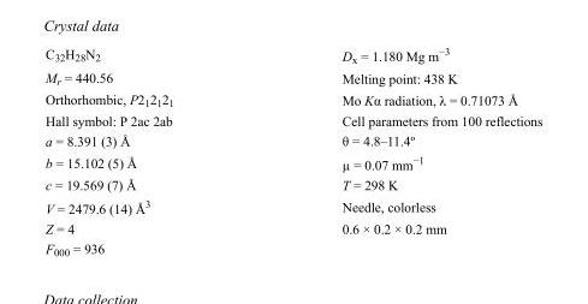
<table><tbody><tr><td>C<sub>32</sub>H<sub>28</sub>N<sub>2</sub></td><td>D<sub>x</sub> = 1.180 Mg m<sup>−3</sup></td></tr><tr><td>M<sub>r</sub> = 440.56</td><td>Melting point: 438 K</td></tr><tr><td>Orthorhombic, P2<sub>1</sub>2<sub>1</sub>2<sub>1</sub></td><td>Mo Kα radiation, λ = 0.71073 Å</td></tr><tr><td>Hall symbol: P 2ac 2ab</td><td>Cell parameters from 100 reflections</td></tr><tr><td>a = 8.391 (3) Å</td><td>θ = 4.8–11.4º</td></tr><tr><td>b = 15.102 (5) Å</td><td>µ = 0.07 mm<sup>−1</sup></td></tr><tr><td>c = 19.569 (7) Å</td><td>T = 298 K</td></tr><tr><td>V = 2479.6 (14) Å<sup>3</sup></td><td>Needle, colorless</td></tr><tr><td>Z = 4</td><td>0.6 × 0.2 × 0.2 mm</td></tr><tr><td>F000 = 936</td><td></td></tr></tbody></table>